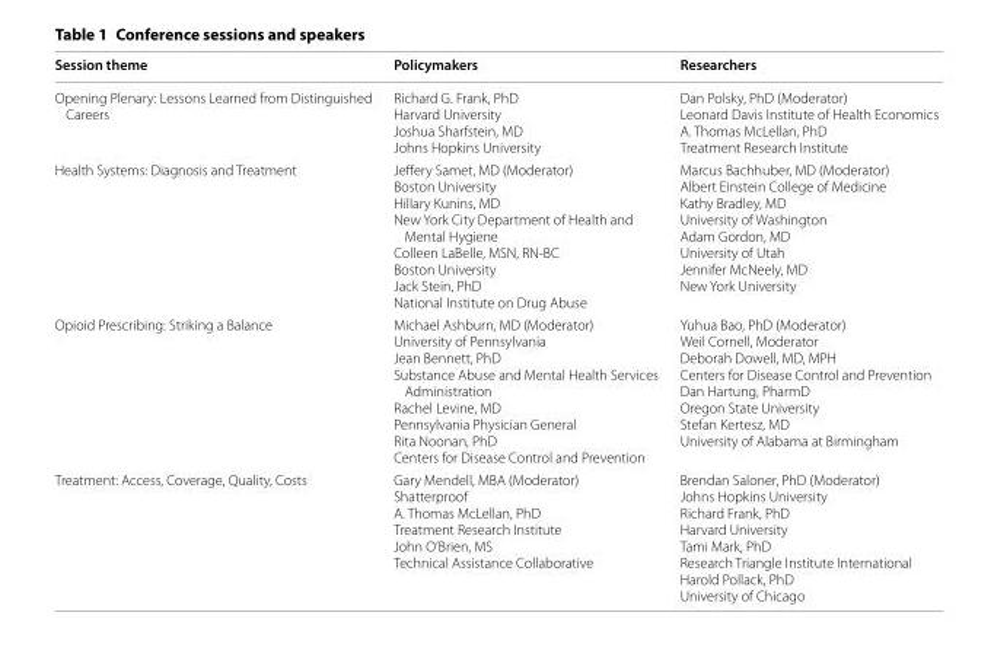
<table><thead><tr><td>Session theme</td><td>Policymakers</td><td>Researchers</td></tr></thead><tbody><tr><td>Opening Plenary: Lessons Learned from Distinguished Careers</td><td>Richard G. Frank, PhD Harvard University Joshua Sharfstein, MD Johns Hopkins University</td><td>Dan Polsky, PhD (Moderator) Leonard Davis Institute of Health Economics A. Thomas McLellan, PhD Treatment Research Institute</td></tr><tr><td>Health Systems: Diagnosis and Treatment</td><td>Jeffery Samet, MD (Moderator) Boston University Hillary Kunins, MD New York City Department of Health and Mental Hygiene Colleen LaBelle, MSN, RN-BC Boston University Jack Stein, PhD National Institute on Drug Abuse</td><td>Marcus Bachhuber, MD (Moderator) Albert Einstein College of Medicine Kathy Bradley, MD University of Washington Adam Gordon, MD University of Utah Jennifer McNeely, MD New York University</td></tr><tr><td>Opioid Prescribing: Striking a Balance</td><td>Michael Ashburn, MD (Moderator) University of Pennsylvania Jean Bennett, PhD Substance Abuse and Mental Health Services Administration Rachel Levine, MD Pennsylvania Physician General Rita Noonan, PhD Centers for Disease Control and Prevention</td><td>Yuhua Bao, PhD (Moderator) Weil Cornell, Moderator Deborah Dowell, MD, MPH Centers for Disease Control and Prevention Dan Hartung, PharmD Oregon State University Stefan Kertesz, MD University of Alabama at Birmingham</td></tr><tr><td>Treatment: Access, Coverage, Quality, Costs</td><td>Gary Mendell, MBA (Moderator) Shatterproof A. Thomas McLellan, PhD Treatment Research Institute John O’Brien, MS Technical Assistance Collaborative</td><td>Brendan Saloner, PhD (Moderator) Johns Hopkins University Richard Frank, PhD Harvard University Tami Mark, PhD Research Triangle Institute International Harold Pollack, PhD University of Chicago</td></tr></tbody></table>